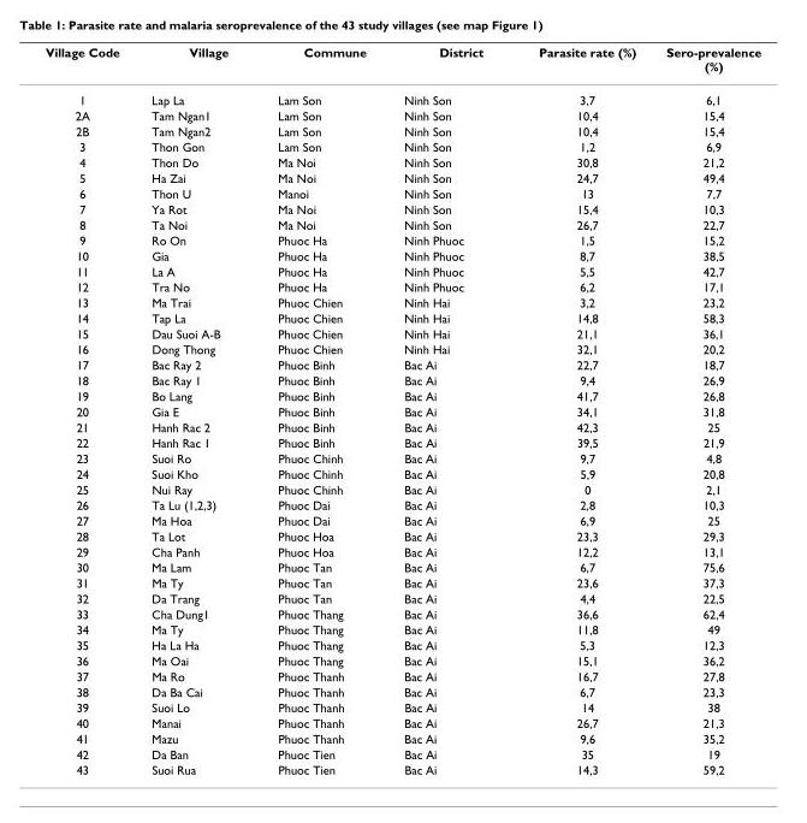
<table><thead><tr><td>Village Code</td><td>Village</td><td>Commune</td><td>District</td><td>Parasite rate (%)</td><td>Sero-prevalence (%)</td></tr></thead><tbody><tr><td>1</td><td>Lap La</td><td>Lam Son</td><td>Ninh Son</td><td>3,7</td><td>6,1</td></tr><tr><td>2A</td><td>Tam Ngan1</td><td>Lam Son</td><td>Ninh Son</td><td>10,4</td><td>15,4</td></tr><tr><td>2B</td><td>Tam Ngan2</td><td>Lam Son</td><td>Ninh Son</td><td>10,4</td><td>15,4</td></tr><tr><td>3</td><td>Thon Gon</td><td>Lam Son</td><td>Ninh Son</td><td>1,2</td><td>6,9</td></tr><tr><td>4</td><td>Thon Do</td><td>Ma Noi</td><td>Ninh Son</td><td>30,8</td><td>21,2</td></tr><tr><td>5</td><td>Ha Zai</td><td>Ma Noi</td><td>Ninh Son</td><td>24,7</td><td>49,4</td></tr><tr><td>6</td><td>Thon U</td><td>Manoi</td><td>Ninh Son</td><td>13</td><td>7,7</td></tr><tr><td>7</td><td>Ya Rot</td><td>Ma Noi</td><td>Ninh Son</td><td>15,4</td><td>10,3</td></tr><tr><td>8</td><td>Ta Noi</td><td>Ma Noi</td><td>Ninh Son</td><td>26,7</td><td>22,7</td></tr><tr><td>9</td><td>Ro On</td><td>Phuoc Ha</td><td>Ninh Phuoc</td><td>1,5</td><td>15,2</td></tr><tr><td>10</td><td>Gia</td><td>Phuoc Ha</td><td>Ninh Phuoc</td><td>8,7</td><td>38,5</td></tr><tr><td>11</td><td>La A</td><td>Phuoc Ha</td><td>Ninh Phuoc</td><td>5,5</td><td>42,7</td></tr><tr><td>12</td><td>Tra No</td><td>Phuoc Ha</td><td>Ninh Phuoc</td><td>6,2</td><td>17,1</td></tr><tr><td>13</td><td>Ma Trai</td><td>Phuoc Chien</td><td>Ninh Hai</td><td>3,2</td><td>23,2</td></tr><tr><td>14</td><td>Tap La</td><td>Phuoc Chien</td><td>Ninh Hai</td><td>14,8</td><td>58,3</td></tr><tr><td>15</td><td>Dau Suoi A-B</td><td>Phuoc Chien</td><td>Ninh Hai</td><td>21,1</td><td>36,1</td></tr><tr><td>16</td><td>Dong Thong</td><td>Phuoc Chien</td><td>Ninh Hai</td><td>32,1</td><td>20,2</td></tr><tr><td>17</td><td>Bac Ray 2</td><td>Phuoc Binh</td><td>Bac Ai</td><td>22,7</td><td>18,7</td></tr><tr><td>18</td><td>Bac Ray 1</td><td>Phuoc Binh</td><td>Bac Ai</td><td>9,4</td><td>26,9</td></tr><tr><td>19</td><td>Bo Lang</td><td>Phuoc Binh</td><td>Bac Ai</td><td>41,7</td><td>26,8</td></tr><tr><td>20</td><td>Gia E</td><td>Phuoc Binh</td><td>Bac Ai</td><td>34,1</td><td>31,8</td></tr><tr><td>21</td><td>Hanh Rac 2</td><td>Phuoc Binh</td><td>Bac Ai</td><td>42,3</td><td>25</td></tr><tr><td>22</td><td>Hanh Rac 1</td><td>Phuoc Binh</td><td>Bac Ai</td><td>39,5</td><td>21,9</td></tr><tr><td>23</td><td>Suoi Ro</td><td>Phuoc Chinh</td><td>Bac Ai</td><td>9,7</td><td>4,8</td></tr><tr><td>24</td><td>Suoi Kho</td><td>Phuoc Chinh</td><td>Bac Ai</td><td>5,9</td><td>20,8</td></tr><tr><td>25</td><td>Nui Ray</td><td>Phuoc Chinh</td><td>Bac Ai</td><td>0</td><td>2,1</td></tr><tr><td>26</td><td>Ta Lu (1,2,3)</td><td>Phuoc Dai</td><td>Bac Ai</td><td>2,8</td><td>10,3</td></tr><tr><td>27</td><td>Ma Hoa</td><td>Phuoc Dai</td><td>Bac Ai</td><td>6,9</td><td>25</td></tr><tr><td>28</td><td>Ta Lot</td><td>Phuoc Hoa</td><td>Bac Ai</td><td>23,3</td><td>29,3</td></tr><tr><td>29</td><td>Cha Panh</td><td>Phuoc Hoa</td><td>Bac Ai</td><td>12,2</td><td>13,1</td></tr><tr><td>30</td><td>Ma Lam</td><td>Phuoc Tan</td><td>Bac Ai</td><td>6,7</td><td>75,6</td></tr><tr><td>31</td><td>Ma Ty</td><td>Phuoc Tan</td><td>Bac Ai</td><td>23,6</td><td>37,3</td></tr><tr><td>32</td><td>Da Trang</td><td>Phuoc Tan</td><td>Bac Ai</td><td>4,4</td><td>22,5</td></tr><tr><td>33</td><td>Cha Dung1</td><td>Phuoc Thang</td><td>Bac Ai</td><td>36,6</td><td>62,4</td></tr><tr><td>34</td><td>Ma Ty</td><td>Phuoc Thang</td><td>Bac Ai</td><td>11,8</td><td>49</td></tr><tr><td>35</td><td>Ha La Ha</td><td>Phuoc Thang</td><td>Bac Ai</td><td>5,3</td><td>12,3</td></tr><tr><td>36</td><td>Ma Oai</td><td>Phuoc Thang</td><td>Bac Ai</td><td>15,1</td><td>36,2</td></tr><tr><td>37</td><td>Ma Ro</td><td>Phuoc Thanh</td><td>Bac Ai</td><td>16,7</td><td>27,8</td></tr><tr><td>38</td><td>Da Ba Cai</td><td>Phuoc Thanh</td><td>Bac Ai</td><td>6,7</td><td>23,3</td></tr><tr><td>39</td><td>Suoi Lo</td><td>Phuoc Thanh</td><td>Bac Ai</td><td>14</td><td>38</td></tr><tr><td>40</td><td>Manai</td><td>Phuoc Thanh</td><td>Bac Ai</td><td>26,7</td><td>21,3</td></tr><tr><td>41</td><td>Mazu</td><td>Phuoc Thanh</td><td>Bac Ai</td><td>9,6</td><td>35,2</td></tr><tr><td>42</td><td>Da Ban</td><td>Phuoc Tien</td><td>Bac Ai</td><td>35</td><td>19</td></tr><tr><td>43</td><td>Suoi Rua</td><td>Phuoc Tien</td><td>Bac Ai</td><td>14,3</td><td>59,2</td></tr></tbody></table>